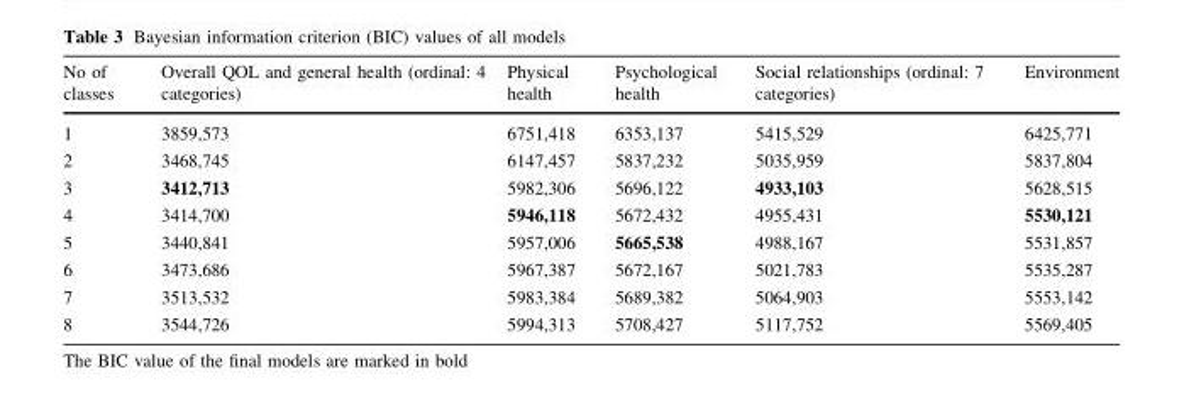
<table><thead><tr><td>No of classes</td><td>Overall QOL and general health (ordinal: 4 categories)</td><td>Physical health</td><td>Psychological health</td><td>Social relationships (ordinal: 7 categories)</td><td>Environment</td></tr></thead><tbody><tr><td>1</td><td>3859,573</td><td>6751,418</td><td>6353,137</td><td>5415,529</td><td>6425,771</td></tr><tr><td>2</td><td>3468,745</td><td>6147,457</td><td>5837,232</td><td>5035,959</td><td>5837,804</td></tr><tr><td>3</td><td>3412,713</td><td>5982,306</td><td>5696,122</td><td>4933,103</td><td>5628,515</td></tr><tr><td>4</td><td>3414,700</td><td>5946,118</td><td>5672,432</td><td>4955,431</td><td>5530,121</td></tr><tr><td>5</td><td>3440,841</td><td>5957,006</td><td>5665,538</td><td>4988,167</td><td>5531,857</td></tr><tr><td>6</td><td>3473,686</td><td>5967,387</td><td>5672,167</td><td>5021,783</td><td>5535,287</td></tr><tr><td>7</td><td>3513,532</td><td>5983,384</td><td>5689,382</td><td>5064,903</td><td>5553,142</td></tr><tr><td>8</td><td>3544,726</td><td>5994,313</td><td>5708,427</td><td>5117,752</td><td>5569,405</td></tr></tbody></table>